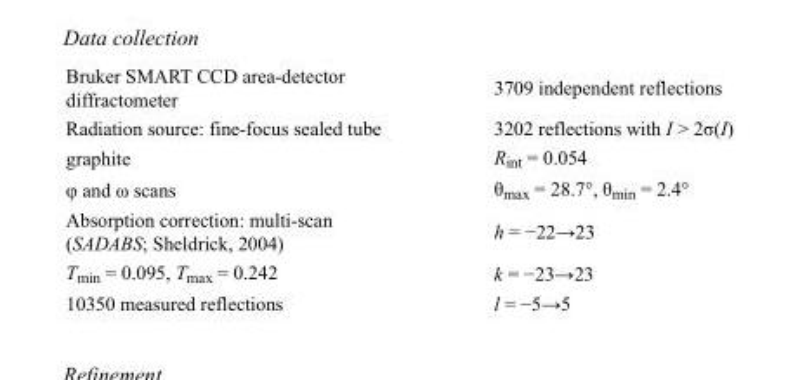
<table><tbody><tr><td>Bruker SMART CCD area-detector diffractometer</td><td>3709 independent reflections</td></tr><tr><td>Radiation source: fine-focus sealed tube</td><td>3202 reflections with I &gt; 2σ(I)</td></tr><tr><td>graphite</td><td>R<sub>int</sub> = 0.054</td></tr><tr><td>φ and ω scans</td><td>θ<sub>max</sub> = 28.7°, θ<sub>min</sub> = 2.4°</td></tr><tr><td>Absorption correction: multi-scan (SADABS; Sheldrick, 2004)</td><td>h = −22→23</td></tr><tr><td>T<sub>min</sub> = 0.095, T<sub>max</sub> = 0.242</td><td>k = −23→23</td></tr><tr><td>10350 measured reflections</td><td>l = −5→5</td></tr></tbody></table>